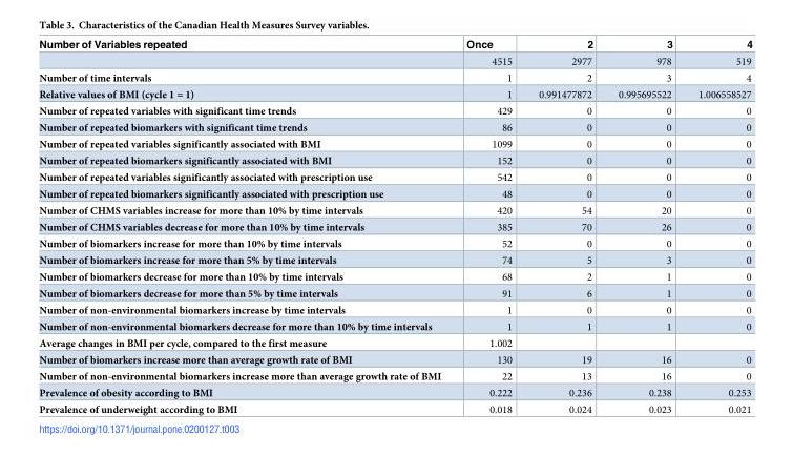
<table><thead><tr><td>Number of Variables repeated</td><td>Once</td><td>2</td><td>3</td><td>4</td></tr></thead><tbody><tr><td></td><td>4515</td><td>2977</td><td>978</td><td>519</td></tr><tr><td>Number of time intervals</td><td>1</td><td>2</td><td>3</td><td>4</td></tr><tr><td>Relative values of BMI (cycle 1 = 1)</td><td>1</td><td>0.991477872</td><td>0.995695522</td><td>1.006558527</td></tr><tr><td>Number of repeated variables with significant time trends</td><td>429</td><td>0</td><td>0</td><td>0</td></tr><tr><td>Number of repeated biomarkers with significant time trends</td><td>86</td><td>0</td><td>0</td><td>0</td></tr><tr><td>Number of repeated variables significantly associated with BMI</td><td>1099</td><td>0</td><td>0</td><td>0</td></tr><tr><td>Number of repeated biomarkers significantly associated with BMI</td><td>152</td><td>0</td><td>0</td><td>0</td></tr><tr><td>Number of repeated variables significantly associated with prescription use</td><td>542</td><td>0</td><td>0</td><td>0</td></tr><tr><td>Number of repeated biomarkers significantly associated with prescription use</td><td>48</td><td>0</td><td>0</td><td>0</td></tr><tr><td>Number of CHMS variables increase for more than 10% by time intervals</td><td>420</td><td>54</td><td>20</td><td>0</td></tr><tr><td>Number of CHMS variables decrease for more than 10% by time intervals</td><td>385</td><td>70</td><td>26</td><td>0</td></tr><tr><td>Number of biomarkers increase for more than 10% by time intervals</td><td>52</td><td>0</td><td>0</td><td>0</td></tr><tr><td>Number of biomarkers increase for more than 5% by time intervals</td><td>74</td><td>5</td><td>3</td><td>0</td></tr><tr><td>Number of biomarkers decrease for more than 10% by time intervals</td><td>68</td><td>2</td><td>1</td><td>0</td></tr><tr><td>Number of biomarkers decrease for more than 5% by time intervals</td><td>91</td><td>6</td><td>1</td><td>0</td></tr><tr><td>Number of non-environmental biomarkers increase by time intervals</td><td>1</td><td>0</td><td>0</td><td>0</td></tr><tr><td>Number of non-environmental biomarkers decrease for more than 10% by time intervals</td><td>1</td><td>1</td><td>1</td><td>0</td></tr><tr><td>Average changes in BMI per cycle, compared to the first measure</td><td>1.002</td><td></td><td></td><td></td></tr><tr><td>Number of biomarkers increase more than average growth rate of BMI</td><td>130</td><td>19</td><td>16</td><td>0</td></tr><tr><td>Number of non-environmental biomarkers increase more than average growth rate of BMI</td><td>22</td><td>13</td><td>16</td><td>0</td></tr><tr><td>Prevalence of obesity according to BMI</td><td>0.222</td><td>0.236</td><td>0.238</td><td>0.253</td></tr><tr><td>Prevalence of underweight according to BMI</td><td>0.018</td><td>0.024</td><td>0.023</td><td>0.021</td></tr></tbody></table>